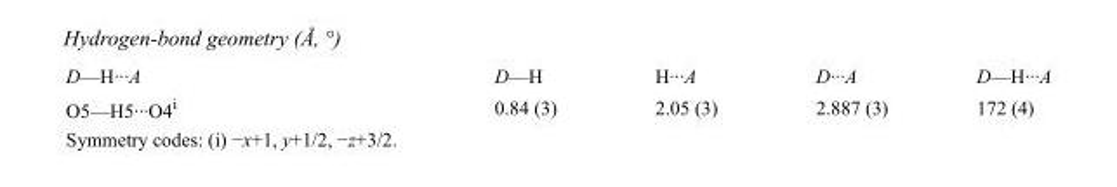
<table><tbody><tr><td>D—H···A</td><td>D—H</td><td>H···A</td><td>D···A</td><td>D—H···A</td></tr><tr><td>O5—H5···O4<sup>i</sup></td><td>0.84 (3)</td><td>2.05 (3)</td><td>2.887 (3)</td><td>172 (4)</td></tr></tbody></table>